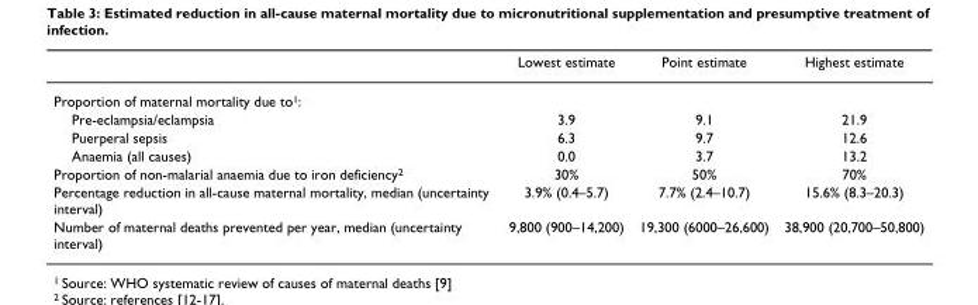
<table><thead><tr><td></td><td>Lowest estimate</td><td>Point estimate</td><td>Highest estimate</td></tr></thead><tbody><tr><td colspan="4">Proportion of maternal mortality due to<sup>1</sup>:</td></tr><tr><td>Pre-eclampsia/eclampsia</td><td>3.9</td><td>9.1</td><td>21.9</td></tr><tr><td>Puerperal sepsis</td><td>6.3</td><td>9.7</td><td>12.6</td></tr><tr><td>Anaemia (all causes)</td><td>0.0</td><td>3.7</td><td>13.2</td></tr><tr><td>Proportion of non-malarial anaemia due to iron deficiency<sup>2</sup></td><td>30%</td><td>50%</td><td>70%</td></tr><tr><td>Percentage reduction in all-cause maternal mortality, median (uncertainty interval)</td><td>3.9% (0.4–5.7)</td><td>7.7% (2.4–10.7)</td><td>15.6% (8.3–20.3)</td></tr><tr><td>Number of maternal deaths prevented per year, median (uncertainty interval)</td><td>9,800 (900–14,200)</td><td>19,300 (6000–26,600)</td><td>38,900 (20,700–50,800)</td></tr></tbody></table>